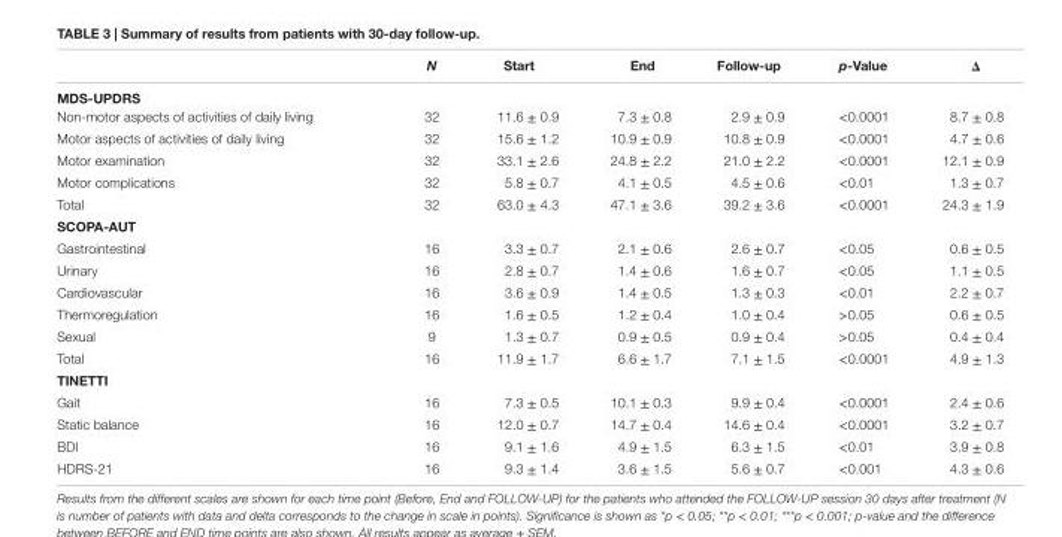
<table><thead><tr><td></td><td>N</td><td>start</td><td>end</td><td>Follow-up</td><td>p-Value</td><td>Δ</td></tr></thead><tbody><tr><td colspan="7">MDs-UPDrs</td></tr><tr><td>Non-motor aspects of activities of daily living</td><td>32</td><td>11.6 ± 0.9</td><td>7.3 ± 0.8</td><td>2.9 ± 0.9</td><td>&lt;0.0001</td><td>8.7 ± 0.8</td></tr><tr><td>Motor aspects of activities of daily living</td><td>32</td><td>15.6 ± 1.2</td><td>10.9 ± 0.9</td><td>10.8 ± 0.9</td><td>&lt;0.0001</td><td>4.7 ± 0.6</td></tr><tr><td>Motor examination</td><td>32</td><td>33.1 ± 2.6</td><td>24.8 ± 2.2</td><td>21.0 ± 2.2</td><td>&lt;0.0001</td><td>12.1 ± 0.9</td></tr><tr><td>Motor complications</td><td>32</td><td>5.8 ± 0.7</td><td>4.1 ± 0.5</td><td>4.5 ± 0.6</td><td>&lt;0.01</td><td>1.3 ± 0.7</td></tr><tr><td>Total</td><td>32</td><td>63.0 ± 4.3</td><td>47.1 ± 3.6</td><td>39.2 ± 3.6</td><td>&lt;0.0001</td><td>24.3 ± 1.9</td></tr><tr><td colspan="7">scOPa-aUT</td></tr><tr><td>Gastrointestinal</td><td>16</td><td>3.3 ± 0.7</td><td>2.1 ± 0.6</td><td>2.6 ± 0.7</td><td>&lt;0.05</td><td>0.6 ± 0.5</td></tr><tr><td>Urinary</td><td>16</td><td>2.8 ± 0.7</td><td>1.4 ± 0.6</td><td>1.6 ± 0.7</td><td>&lt;0.05</td><td>1.1 ± 0.5</td></tr><tr><td>Cardiovascular</td><td>16</td><td>3.6 ± 0.9</td><td>1.4 ± 0.5</td><td>1.3 ± 0.3</td><td>&lt;0.01</td><td>2.2 ± 0.7</td></tr><tr><td>Thermoregulation</td><td>16</td><td>1.6 ± 0.5</td><td>1.2 ± 0.4</td><td>1.0 ± 0.4</td><td>&gt;0.05</td><td>0.6 ± 0.5</td></tr><tr><td>Sexual</td><td>9</td><td>1.3 ± 0.7</td><td>0.9 ± 0.5</td><td>0.9 ± 0.4</td><td>&gt;0.05</td><td>0.4 ± 0.4</td></tr><tr><td>Total</td><td>16</td><td>11.9 ± 1.7</td><td>6.6 ± 1.7</td><td>7.1 ± 1.5</td><td>&lt;0.0001</td><td>4.9 ± 1.3</td></tr><tr><td colspan="7">TineTTi</td></tr><tr><td>Gait</td><td>16</td><td>7.3 ± 0.5</td><td>10.1 ± 0.3</td><td>9.9 ± 0.4</td><td>&lt;0.0001</td><td>2.4 ± 0.6</td></tr><tr><td>Static balance</td><td>16</td><td>12.0 ± 0.7</td><td>14.7 ± 0.4</td><td>14.6 ± 0.4</td><td>&lt;0.0001</td><td>3.2 ± 0.7</td></tr><tr><td>BDI</td><td>16</td><td>9.1 ± 1.6</td><td>4.9 ± 1.5</td><td>6.3 ± 1.5</td><td>&lt;0.01</td><td>3.9 ± 0.8</td></tr><tr><td>HDRS-21</td><td>16</td><td>9.3 ± 1.4</td><td>3.6 ± 1.5</td><td>5.6 ± 0.7</td><td>&lt;0.001</td><td>4.3 ± 0.6</td></tr></tbody></table>